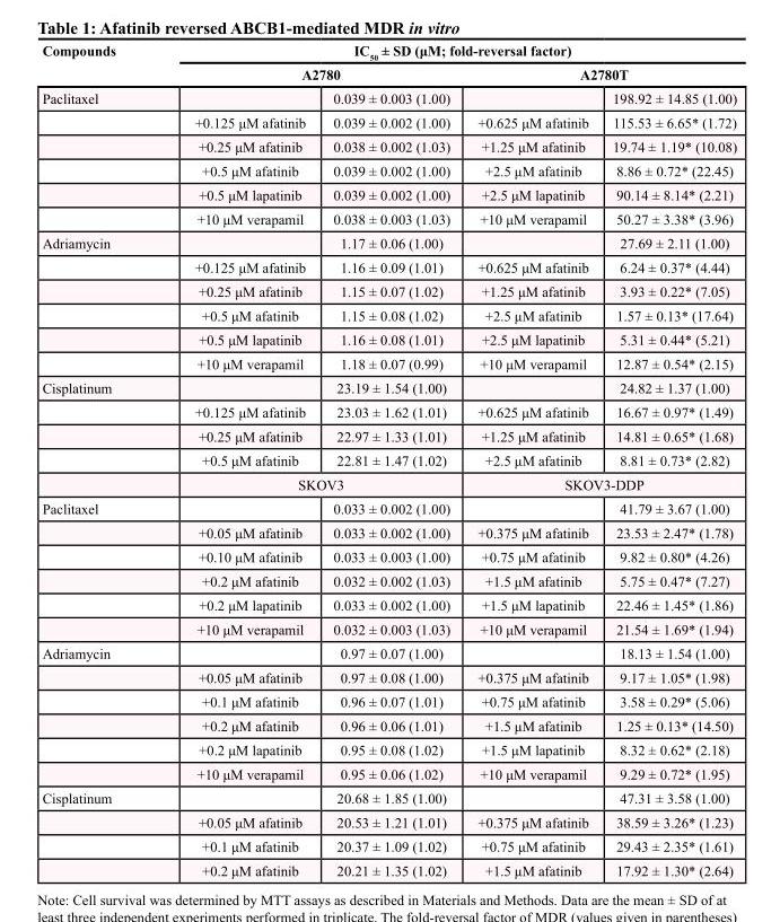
<table><thead><tr><td rowspan="3">Compounds Paclitaxel</td><td colspan="4">IC<sub>50</sub> ± SD (μM; fold-reversal factor)</td></tr><tr><td colspan="2">A2780</td><td colspan="2">A2780T</td></tr><tr><td></td><td>0.039 ± 0.003 (1.00)</td><td></td><td>198.92 ± 14.85 (1.00)</td></tr></thead><tbody><tr><td></td><td>+0.125 μM afatinib</td><td>0.039 ± 0.002 (1.00)</td><td>+0.625 μM afatinib</td><td>115.53 ± 6.65* (1.72)</td></tr><tr><td></td><td>+0.25 μM afatinib</td><td>0.038 ± 0.002 (1.03)</td><td>+1.25 μM afatinib</td><td>19.74 ± 1.19* (10.08)</td></tr><tr><td></td><td>+0.5 μM afatinib</td><td>0.039 ± 0.002 (1.00)</td><td>+2.5 μM afatinib</td><td>8.86 ± 0.72* (22.45)</td></tr><tr><td></td><td>+0.5 μM lapatinib</td><td>0.039 ± 0.002 (1.00)</td><td>+2.5 μM lapatinib</td><td>90.14 ± 8.14* (2.21)</td></tr><tr><td></td><td>+10 μM verapamil</td><td>0.038 ± 0.003 (1.03)</td><td>+10 μM verapamil</td><td>50.27 ± 3.38* (3.96)</td></tr><tr><td rowspan="6">Adriamycin</td><td></td><td>1.17 ± 0.06 (1.00)</td><td></td><td>27.69 ± 2.11 (1.00)</td></tr><tr><td>+0.125 μM afatinib</td><td>1.16 ± 0.09 (1.01)</td><td>+0.625 μM afatinib</td><td>6.24 ± 0.37* (4.44)</td></tr><tr><td>+0.25 μM afatinib</td><td>1.15 ± 0.07 (1.02)</td><td>+1.25 μM afatinib</td><td>3.93 ± 0.22* (7.05)</td></tr><tr><td>+0.5 μM afatinib</td><td>1.15 ± 0.08 (1.02)</td><td>+2.5 μM afatinib</td><td>1.57 ± 0.13* (17.64)</td></tr><tr><td>+0.5 μM lapatinib</td><td>1.16 ± 0.08 (1.01)</td><td>+2.5 μM lapatinib</td><td>5.31 ± 0.44* (5.21)</td></tr><tr><td>+10 μM verapamil</td><td>1.18 ± 0.07 (0.99)</td><td>+10 μM verapamil</td><td>12.87 ± 0.54* (2.15)</td></tr><tr><td rowspan="5">Cisplatinum</td><td></td><td>23.19 ± 1.54 (1.00)</td><td></td><td>24.82 ± 1.37 (1.00)</td></tr><tr><td>+0.125 μM afatinib</td><td>23.03 ± 1.62 (1.01)</td><td>+0.625 μM afatinib</td><td>16.67 ± 0.97* (1.49)</td></tr><tr><td>+0.25 μM afatinib</td><td>22.97 ± 1.33 (1.01)</td><td>+1.25 μM afatinib</td><td>14.81 ± 0.65* (1.68)</td></tr><tr><td>+0.5 μM afatinib</td><td>22.81 ± 1.47 (1.02)</td><td>+2.5 μM afatinib</td><td>8.81 ± 0.73* (2.82)</td></tr><tr><td colspan="2">SKOV3</td><td colspan="2">SKOV3-DDP</td></tr><tr><td rowspan="6">Paclitaxel</td><td></td><td>0.033 ± 0.002 (1.00)</td><td></td><td>41.79 ± 3.67 (1.00)</td></tr><tr><td>+0.05 μM afatinib</td><td>0.033 ± 0.002 (1.00)</td><td>+0.375 μM afatinib</td><td>23.53 ± 2.47* (1.78)</td></tr><tr><td>+0.10 μM afatinib</td><td>0.033 ± 0.003 (1.00)</td><td>+0.75 μM afatinib</td><td>9.82 ± 0.80* (4.26)</td></tr><tr><td>+0.2 μM afatinib</td><td>0.032 ± 0.002 (1.03)</td><td>+1.5 μM afatinib</td><td>5.75 ± 0.47* (7.27)</td></tr><tr><td>+0.2 μM lapatinib</td><td>0.033 ± 0.002 (1.00)</td><td>+1.5 μM lapatinib</td><td>22.46 ± 1.45* (1.86)</td></tr><tr><td>+10 μM verapamil</td><td>0.032 ± 0.003 (1.03)</td><td>+10 μM verapamil</td><td>21.54 ± 1.69* (1.94)</td></tr><tr><td rowspan="6">Adriamycin</td><td></td><td>0.97 ± 0.07 (1.00)</td><td></td><td>18.13 ± 1.54 (1.00)</td></tr><tr><td>+0.05 μM afatinib</td><td>0.97 ± 0.08 (1.00)</td><td>+0.375 μM afatinib</td><td>9.17 ± 1.05* (1.98)</td></tr><tr><td>+0.1 μM afatinib</td><td>0.96 ± 0.07 (1.01)</td><td>+0.75 μM afatinib</td><td>3.58 ± 0.29* (5.06)</td></tr><tr><td>+0.2 μM afatinib</td><td>0.96 ± 0.06 (1.01)</td><td>+1.5 μM afatinib</td><td>1.25 ± 0.13* (14.50)</td></tr><tr><td>+0.2 μM lapatinib</td><td>0.95 ± 0.08 (1.02)</td><td>+1.5 μM lapatinib</td><td>8.32 ± 0.62* (2.18)</td></tr><tr><td>+10 μM verapamil</td><td>0.95 ± 0.06 (1.02)</td><td>+10 μM verapamil</td><td>9.29 ± 0.72* (1.95)</td></tr><tr><td rowspan="4">Cisplatinum</td><td></td><td>20.68 ± 1.85 (1.00)</td><td></td><td>47.31 ± 3.58 (1.00)</td></tr><tr><td>+0.05 μM afatinib</td><td>20.53 ± 1.21 (1.01)</td><td>+0.375 μM afatinib</td><td>38.59 ± 3.26* (1.23)</td></tr><tr><td>+0.1 μM afatinib</td><td>20.37 ± 1.09 (1.02)</td><td>+0.75 μM afatinib</td><td>29.43 ± 2.35* (1.61)</td></tr><tr><td>+0.2 μM afatinib</td><td>20.21 ± 1.35 (1.02)</td><td>+1.5 μM afatinib</td><td>17.92 ± 1.30* (2.64)</td></tr></tbody></table>